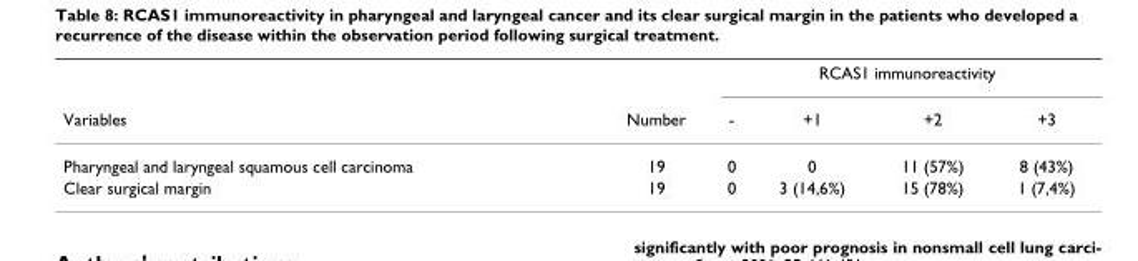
<table><thead><tr><td rowspan="2">Variables</td><td rowspan="2">Number</td><td colspan="4">RCAS1 immunoreactivity</td></tr><tr><td>-</td><td>+1</td><td>+2</td><td>+3</td></tr></thead><tbody><tr><td>Pharyngeal and laryngeal squamous cell carcinoma</td><td>19</td><td>0</td><td>0</td><td>11 (57%)</td><td>8 (43%)</td></tr><tr><td>Clear surgical margin</td><td>19</td><td>0</td><td>3 (14,6%)</td><td>15 (78%)</td><td>1 (7,4%)</td></tr></tbody></table>